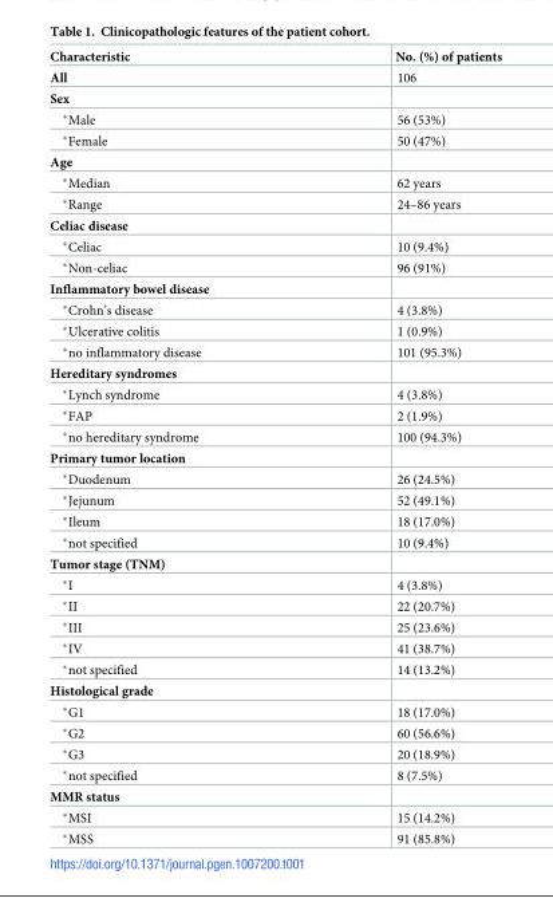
<table><thead><tr><td>Characteristic</td><td>No. (%) of patients</td></tr></thead><tbody><tr><td>All</td><td>106</td></tr><tr><td colspan="2">Sex</td></tr><tr><td>*Male</td><td>56 (53%)</td></tr><tr><td>*Female</td><td>50 (47%)</td></tr><tr><td colspan="2">Age</td></tr><tr><td>*Median</td><td>62 years</td></tr><tr><td>*Range</td><td>24–86 years</td></tr><tr><td colspan="2">Celiac disease</td></tr><tr><td>*Celiac</td><td>10 (9.4%)</td></tr><tr><td>*Non-celiac</td><td>96 (91%)</td></tr><tr><td colspan="2">Inflammatory bowel disease</td></tr><tr><td>*Crohn’s disease</td><td>4 (3.8%)</td></tr><tr><td>*Ulcerative colitis</td><td>1 (0.9%)</td></tr><tr><td>*no inflammatory disease</td><td>101 (95.3%)</td></tr><tr><td colspan="2">Hereditary syndromes</td></tr><tr><td>*Lynch syndrome</td><td>4 (3.8%)</td></tr><tr><td>*FAP</td><td>2 (1.9%)</td></tr><tr><td>*no hereditary syndrome</td><td>100 (94.3%)</td></tr><tr><td colspan="2">Primary tumor location</td></tr><tr><td>*Duodenum</td><td>26 (24.5%)</td></tr><tr><td>*Jejunum</td><td>52 (49.1%)</td></tr><tr><td>*Ileum</td><td>18 (17.0%)</td></tr><tr><td>*not specified</td><td>10 (9.4%)</td></tr><tr><td colspan="2">Tumor stage (TNM)</td></tr><tr><td>*I</td><td>4 (3.8%)</td></tr><tr><td>*II</td><td>22 (20.7%)</td></tr><tr><td>*III</td><td>25 (23.6%)</td></tr><tr><td>*IV</td><td>41 (38.7%)</td></tr><tr><td>*not specified</td><td>14 (13.2%)</td></tr><tr><td colspan="2">Histological grade</td></tr><tr><td>*G1</td><td>18 (17.0%)</td></tr><tr><td>*G2</td><td>60 (56.6%)</td></tr><tr><td>*G3</td><td>20 (18.9%)</td></tr><tr><td>*not specified</td><td>8 (7.5%)</td></tr><tr><td colspan="2">MMR status</td></tr><tr><td>*MSI</td><td>15 (14.2%)</td></tr><tr><td>*MSS</td><td>91 (85.8%)</td></tr></tbody></table>